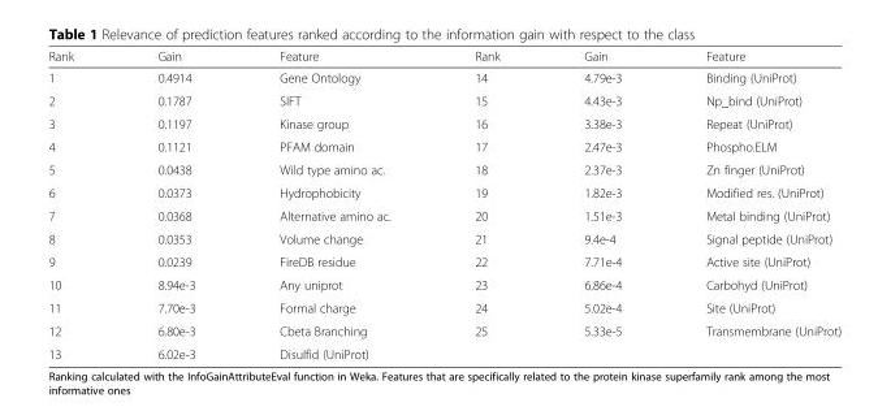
<table><thead><tr><td>Rank</td><td>Gain</td><td>Feature</td><td>Rank</td><td>Gain</td><td>Feature</td></tr></thead><tbody><tr><td>1</td><td>0.4914</td><td>Gene Ontology</td><td>14</td><td>4.79e-3</td><td>Binding (UniProt)</td></tr><tr><td>2</td><td>0.1787</td><td>SIFT</td><td>15</td><td>4.43e-3</td><td>Np_bind (UniProt)</td></tr><tr><td>3</td><td>0.1197</td><td>Kinase group</td><td>16</td><td>3.38e-3</td><td>Repeat (UniProt)</td></tr><tr><td>4</td><td>0.1121</td><td>PFAM domain</td><td>17</td><td>2.47e-3</td><td>Phospho.ELM</td></tr><tr><td>5</td><td>0.0438</td><td>Wild type amino ac.</td><td>18</td><td>2.37e-3</td><td>Zn finger (UniProt)</td></tr><tr><td>6</td><td>0.0373</td><td>Hydrophobicity</td><td>19</td><td>1.82e-3</td><td>Modified res. (UniProt)</td></tr><tr><td>7</td><td>0.0368</td><td>Alternative amino ac.</td><td>20</td><td>1.51e-3</td><td>Metal binding (UniProt)</td></tr><tr><td>8</td><td>0.0353</td><td>Volume change</td><td>21</td><td>9.4e-4</td><td>Signal peptide (UniProt)</td></tr><tr><td>9</td><td>0.0239</td><td>FireDB residue</td><td>22</td><td>7.71e-4</td><td>Active site (UniProt)</td></tr><tr><td>10</td><td>8.94e-3</td><td>Any uniprot</td><td>23</td><td>6.86e-4</td><td>Carbohyd (UniProt)</td></tr><tr><td>11</td><td>7.70e-3</td><td>Formal charge</td><td>24</td><td>5.02e-4</td><td>Site (UniProt)</td></tr><tr><td>12</td><td>6.80e-3</td><td>Cbeta Branching</td><td>25</td><td>5.33e-5</td><td>Transmembrane (UniProt)</td></tr><tr><td>13</td><td>6.02e-3</td><td>Disulfid (UniProt)</td><td></td><td></td><td></td></tr></tbody></table>